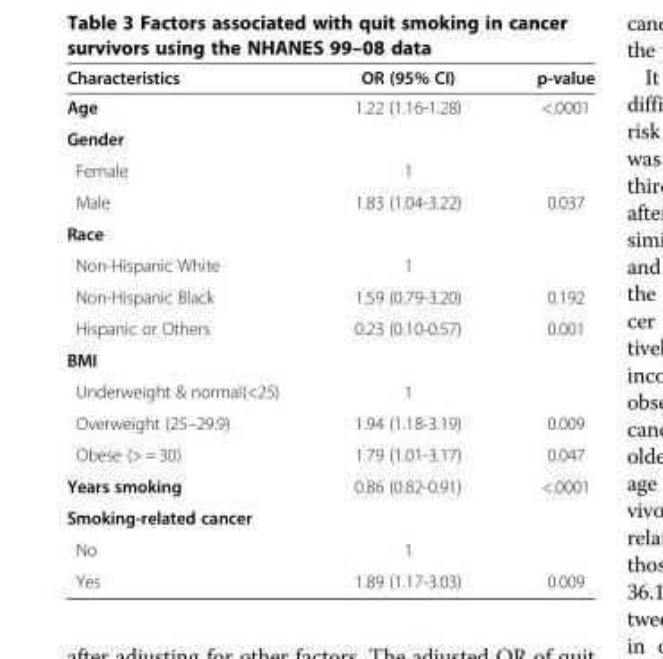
<table><thead><tr><td>Characteristics</td><td>OR (95% CI)</td><td>p-value</td></tr></thead><tbody><tr><td>Age</td><td>1.22 (1.16-1.28)</td><td>&lt;.0001</td></tr><tr><td colspan="3">Gender</td></tr><tr><td>Female</td><td>1</td><td></td></tr><tr><td>Male</td><td>1.83 (1.04-3.22)</td><td>0.037</td></tr><tr><td colspan="3">Race</td></tr><tr><td>Non-Hispanic White</td><td>1</td><td></td></tr><tr><td>Non-Hispanic Black</td><td>1.59 (0.79-3.20)</td><td>0.192</td></tr><tr><td>Hispanic or Others</td><td>0.23 (0.10-0.57)</td><td>0.001</td></tr><tr><td colspan="3">BMI</td></tr><tr><td>Underweight &amp; normal(&lt;25)</td><td>1</td><td></td></tr><tr><td>Overweight (25–29.9)</td><td>1.94 (1.18-3.19)</td><td>0.009</td></tr><tr><td>Obese (&gt; = 30)</td><td>1.79 (1.01-3.17)</td><td>0.047</td></tr><tr><td>Years smoking</td><td>0.86 (0.82-0.91)</td><td>&lt;.0001</td></tr><tr><td colspan="3">Smoking-related cancer</td></tr><tr><td>No</td><td>1</td><td></td></tr><tr><td>Yes</td><td>1.89 (1.17-3.03)</td><td>0.009</td></tr></tbody></table>